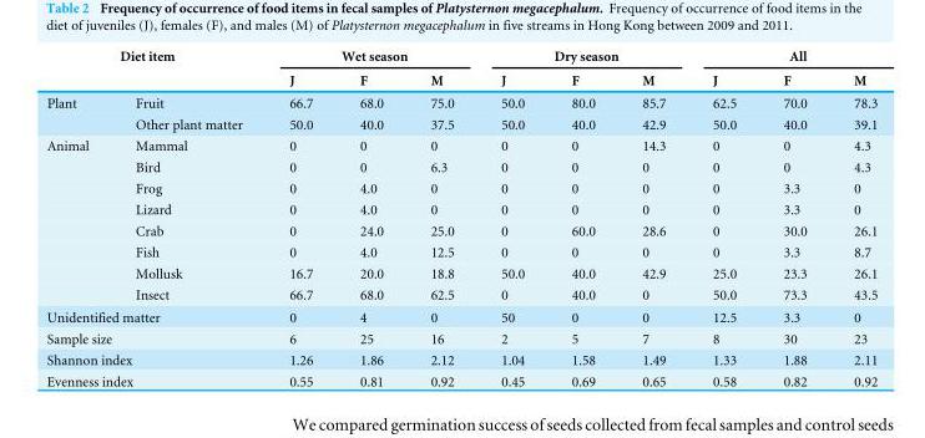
<table><thead><tr><td colspan="2">Diet item</td><td colspan="3">Wet season</td><td colspan="3">Dry season</td><td colspan="3">All</td></tr><tr><td></td><td></td><td>J</td><td>F</td><td>M</td><td>J</td><td>F</td><td>M</td><td>J</td><td>F</td><td>M</td></tr></thead><tbody><tr><td rowspan="2">Plant</td><td>Fruit</td><td>66.7</td><td>68.0</td><td>75.0</td><td>50.0</td><td>80.0</td><td>85.7</td><td>62.5</td><td>70.0</td><td>78.3</td></tr><tr><td>Other plant matter</td><td>50.0</td><td>40.0</td><td>37.5</td><td>50.0</td><td>40.0</td><td>42.9</td><td>50.0</td><td>40.0</td><td>39.1</td></tr><tr><td rowspan="8">Animal</td><td>Mammal</td><td>0</td><td>0</td><td>0</td><td>0</td><td>0</td><td>14.3</td><td>0</td><td>0</td><td>4.3</td></tr><tr><td>Bird</td><td>0</td><td>0</td><td>6.3</td><td>0</td><td>0</td><td>0</td><td>0</td><td>0</td><td>4.3</td></tr><tr><td>Frog</td><td>0</td><td>4.0</td><td>0</td><td>0</td><td>0</td><td>0</td><td>0</td><td>3.3</td><td>0</td></tr><tr><td>Lizard</td><td>0</td><td>4.0</td><td>0</td><td>0</td><td>0</td><td>0</td><td>0</td><td>3.3</td><td>0</td></tr><tr><td>Crab</td><td>0</td><td>24.0</td><td>25.0</td><td>0</td><td>60.0</td><td>28.6</td><td>0</td><td>30.0</td><td>26.1</td></tr><tr><td>Fish</td><td>0</td><td>4.0</td><td>12.5</td><td>0</td><td>0</td><td>0</td><td>0</td><td>3.3</td><td>8.7</td></tr><tr><td>Mollusk</td><td>16.7</td><td>20.0</td><td>18.8</td><td>50.0</td><td>40.0</td><td>42.9</td><td>25.0</td><td>23.3</td><td>26.1</td></tr><tr><td>Insect</td><td>66.7</td><td>68.0</td><td>62.5</td><td>0</td><td>40.0</td><td>0</td><td>50.0</td><td>73.3</td><td>43.5</td></tr><tr><td colspan="2">Unidentified matter</td><td>0</td><td>4</td><td>0</td><td>50</td><td>0</td><td>0</td><td>12.5</td><td>3.3</td><td>0</td></tr><tr><td colspan="2">Sample size</td><td>6</td><td>25</td><td>16</td><td>2</td><td>5</td><td>7</td><td>8</td><td>30</td><td>23</td></tr><tr><td colspan="2">Shannon index</td><td>1.26</td><td>1.86</td><td>2.12</td><td>1.04</td><td>1.58</td><td>1.49</td><td>1.33</td><td>1.88</td><td>2.11</td></tr><tr><td colspan="2">Evenness index</td><td>0.55</td><td>0.81</td><td>0.92</td><td>0.45</td><td>0.69</td><td>0.65</td><td>0.58</td><td>0.82</td><td>0.92</td></tr></tbody></table>